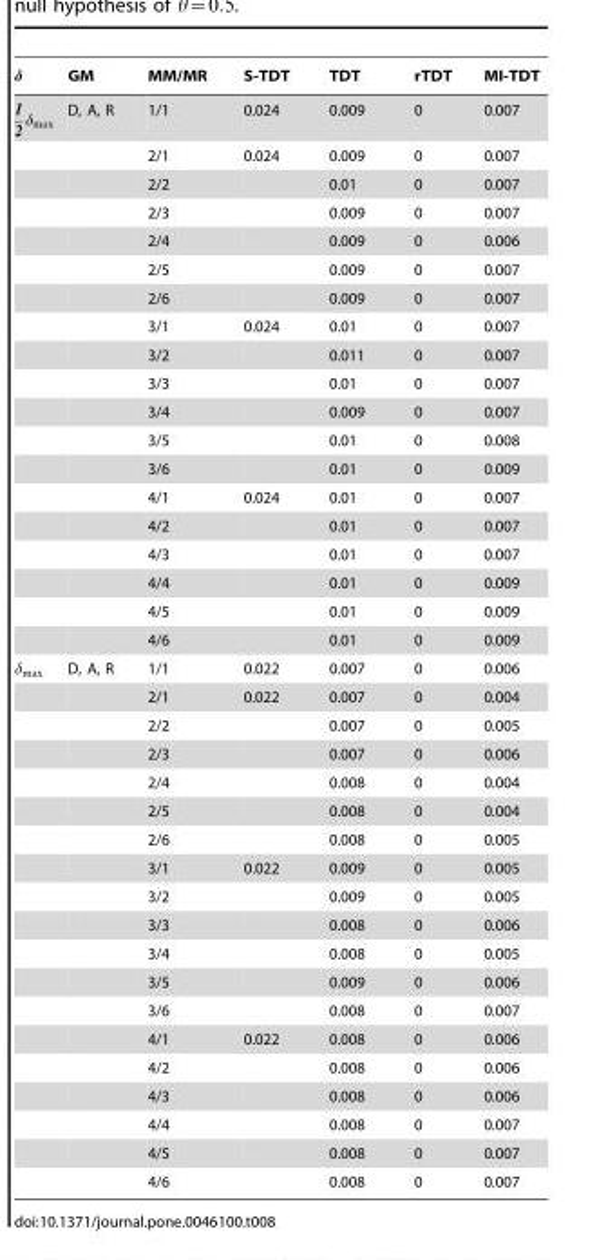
<table><thead><tr><td>GM</td><td>MM/MR</td><td>S-TDT</td><td>TDT</td><td>rTDT</td><td>MI-TDT</td></tr></thead><tbody><tr><td rowspan="19">D, A, R</td><td>1/1</td><td>0.024</td><td>0.009</td><td>0</td><td>0.007</td></tr><tr><td>2/1</td><td>0.024</td><td>0.009</td><td>0</td><td>0.007</td></tr><tr><td>2/2</td><td></td><td>0.01</td><td>0</td><td>0.007</td></tr><tr><td>2/3</td><td></td><td>0.009</td><td>0</td><td>0.007</td></tr><tr><td>2/4</td><td></td><td>0.009</td><td>0</td><td>0.006</td></tr><tr><td>2/5</td><td></td><td>0.009</td><td>0</td><td>0.007</td></tr><tr><td>2/6</td><td></td><td>0.009</td><td>0</td><td>0.007</td></tr><tr><td>3/1</td><td>0.024</td><td>0.01</td><td>0</td><td>0.007</td></tr><tr><td>3/2</td><td></td><td>0.011</td><td>0</td><td>0.007</td></tr><tr><td>3/3</td><td></td><td>0.01</td><td>0</td><td>0.007</td></tr><tr><td>3/4</td><td></td><td>0.009</td><td>0</td><td>0.007</td></tr><tr><td>3/5</td><td></td><td>0.01</td><td>0</td><td>0.008</td></tr><tr><td>3/6</td><td></td><td>0.01</td><td>0</td><td>0.009</td></tr><tr><td>4/1</td><td>0.024</td><td>0.01</td><td>0</td><td>0.007</td></tr><tr><td>4/2</td><td></td><td>0.01</td><td>0</td><td>0.007</td></tr><tr><td>4/3</td><td></td><td>0.01</td><td>0</td><td>0.007</td></tr><tr><td>4/4</td><td></td><td>0.01</td><td>0</td><td>0.009</td></tr><tr><td>4/5</td><td></td><td>0.01</td><td>0</td><td>0.009</td></tr><tr><td>4/6</td><td></td><td>0.01</td><td>0</td><td>0.009</td></tr><tr><td rowspan="19">D, A, R</td><td>1/1</td><td>0.022</td><td>0.007</td><td>0</td><td>0.006</td></tr><tr><td>2/1</td><td>0.022</td><td>0.007</td><td>0</td><td>0.004</td></tr><tr><td>2/2</td><td></td><td>0.007</td><td>0</td><td>0.005</td></tr><tr><td>2/3</td><td></td><td>0.007</td><td>0</td><td>0.006</td></tr><tr><td>2/4</td><td></td><td>0.008</td><td>0</td><td>0.004</td></tr><tr><td>2/5</td><td></td><td>0.008</td><td>0</td><td>0.004</td></tr><tr><td>2/6</td><td></td><td>0.008</td><td>0</td><td>0.005</td></tr><tr><td>3/1</td><td>0.022</td><td>0.009</td><td>0</td><td>0.005</td></tr><tr><td>3/2</td><td></td><td>0.009</td><td>0</td><td>0.005</td></tr><tr><td>3/3</td><td></td><td>0.008</td><td>0</td><td>0.006</td></tr><tr><td>3/4</td><td></td><td>0.008</td><td>0</td><td>0.005</td></tr><tr><td>3/5</td><td></td><td>0.009</td><td>0</td><td>0.006</td></tr><tr><td>3/6</td><td></td><td>0.008</td><td>0</td><td>0.007</td></tr><tr><td>4/1</td><td>0.022</td><td>0.008</td><td>0</td><td>0.006</td></tr><tr><td>4/2</td><td></td><td>0.008</td><td>0</td><td>0.006</td></tr><tr><td>4/3</td><td></td><td>0.008</td><td>0</td><td>0.006</td></tr><tr><td>4/4</td><td></td><td>0.008</td><td>0</td><td>0.007</td></tr><tr><td>4/5</td><td></td><td>0.008</td><td>0</td><td>0.007</td></tr><tr><td>4/6</td><td></td><td>0.008</td><td>0</td><td>0.007</td></tr></tbody></table>